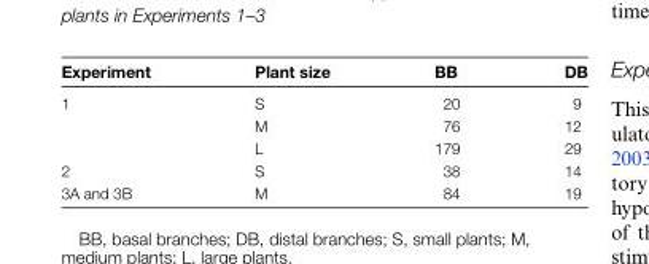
<table><thead><tr><td>Experiment</td><td>Plant size</td><td>BB</td><td>DB</td></tr></thead><tbody><tr><td rowspan="3">1</td><td>S</td><td>20</td><td>9</td></tr><tr><td>M</td><td>76</td><td>12</td></tr><tr><td>L</td><td>179</td><td>29</td></tr><tr><td>2</td><td>S</td><td>38</td><td>14</td></tr><tr><td>3A and 3B</td><td>M</td><td>84</td><td>19</td></tr></tbody></table>